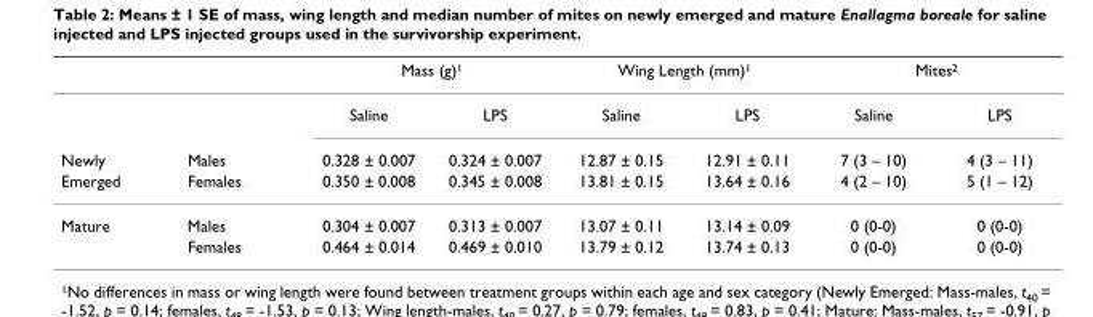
<table><thead><tr><td rowspan="2"></td><td rowspan="2"></td><td colspan="2">Mass (g)1</td><td colspan="2">Wing Length (mm)1</td><td colspan="2">Mites2</td></tr><tr><td>Saline</td><td>LPS</td><td>Saline</td><td>LPS</td><td>Saline</td><td>LPS</td></tr></thead><tbody><tr><td>Newly</td><td>Males</td><td>0.328 ± 0.007</td><td>0.324 ± 0.007</td><td>12.87 ± 0.15</td><td>12.91 ± 0.11</td><td>7 (3 – 10)</td><td>4 (3 – 11)</td></tr><tr><td>Emerged</td><td>Females</td><td>0.350 ± 0.008</td><td>0.345 ± 0.008</td><td>13.81 ± 0.15</td><td>13.64 ± 0.16</td><td>4 (2 – 10)</td><td>5 (1 – 12)</td></tr><tr><td rowspan="2">Mature</td><td>Males</td><td>0.304 ± 0.007</td><td>0.313 ± 0.007</td><td>13.07 ± 0.11</td><td>13.14 ± 0.09</td><td>0 (0-0)</td><td>0 (0-0)</td></tr><tr><td>Females</td><td>0.464 ± 0.014</td><td>0.469 ± 0.010</td><td>13.79 ± 0.12</td><td>13.74 ± 0.13</td><td>0 (0-0)</td><td>0 (0-0)</td></tr></tbody></table>